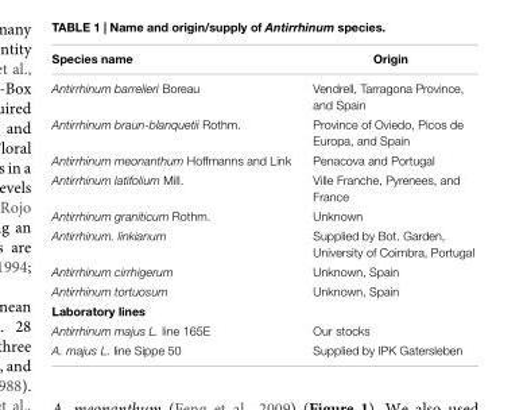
<table><thead><tr><td>Species name</td><td>Origin</td></tr></thead><tbody><tr><td>Antirrhinum barrelieri Boreau</td><td>Vendrell, Tarragona Province, and Spain</td></tr><tr><td>Antirrhinum braun-blanquetii Rothm.</td><td>Province of Oviedo, Picos de Europa, and Spain</td></tr><tr><td>Antirrhinum meonanthum Hoffmanns and Link</td><td>Penacova and Portugal</td></tr><tr><td>Antirrhinum latifolium Mill.</td><td>Ville Franche, Pyrenees, and France</td></tr><tr><td>Antirrhinum graniticum Rothm.</td><td>Unknown</td></tr><tr><td>Antirrhinum. linkianum</td><td>Supplied by Bot. Garden, University of Coimbra, Portugal</td></tr><tr><td>Antirrhinum cirrhigerum</td><td>Unknown, Spain</td></tr><tr><td>Antirrhinum tortuosum</td><td>Unknown, Spain</td></tr><tr><td colspan="2">Laboratory lines</td></tr><tr><td>Antirrhinum majus L. line 165E</td><td>Our stocks</td></tr><tr><td>A. majus L. line Sippe 50</td><td>Supplied by IPK Gatersleben</td></tr></tbody></table>